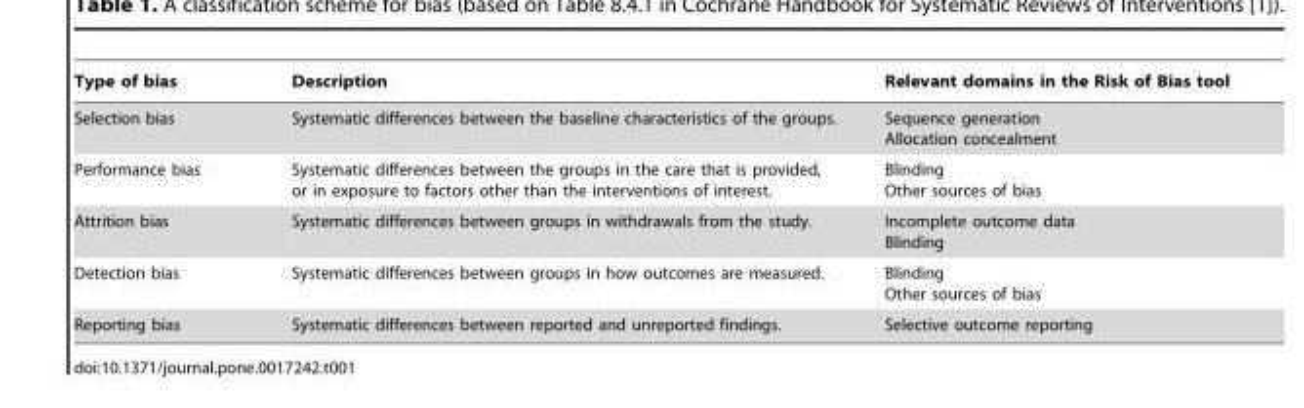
<table><thead><tr><td>Type of bias</td><td>Description</td><td>Relevant domains in the Risk of Bias tool</td></tr></thead><tbody><tr><td>Selection bias</td><td>Systematic differences between the baseline characteristics of the groups.</td><td>Sequence generation Allocation concealment</td></tr><tr><td>Performance bias</td><td>Systematic differences between the groups in the care that is provided, or in exposure to factors other than the interventions of interest.</td><td>Blinding Other sources of bias</td></tr><tr><td>Attrition bias</td><td>Systematic differences between groups in withdrawals from the study.</td><td>Incomplete outcome data Blinding</td></tr><tr><td>Detection bias</td><td>Systematic differences between groups in how outcomes are measured.</td><td>Blinding Other sources of bias</td></tr><tr><td>Reporting bias</td><td>Systematic differences between reported and unreported findings.</td><td>Selective outcome reporting</td></tr></tbody></table>